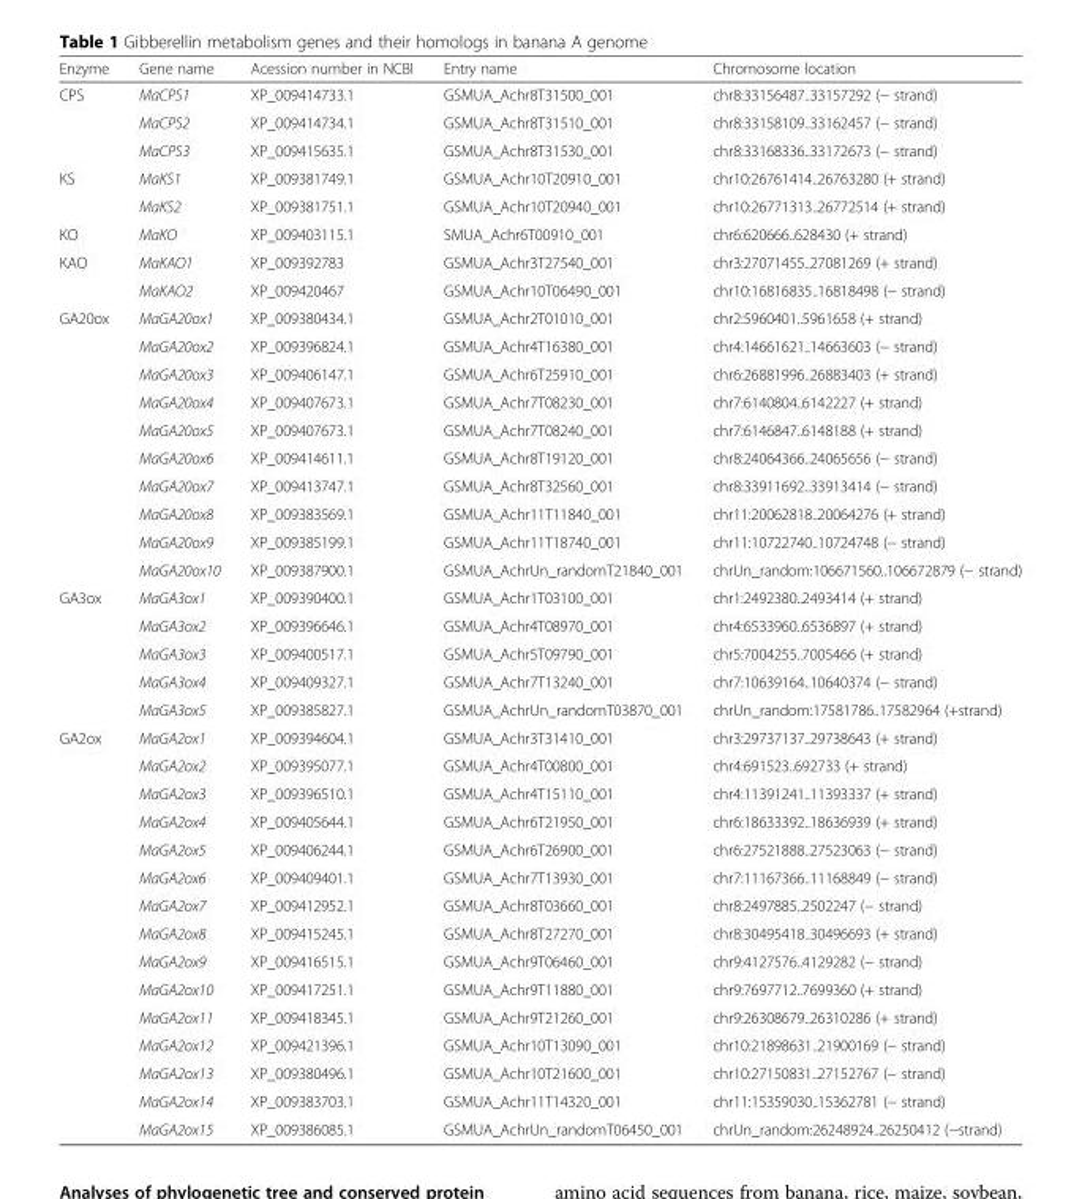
<table><thead><tr><td>Enzyme</td><td>Gene name</td><td>Acession number in NCBI</td><td>Entry name</td><td>Chromosome location</td></tr></thead><tbody><tr><td rowspan="3">CPS</td><td>MaCPS1</td><td>XP_009414733.1</td><td>GSMUA_Achr8T31500_001</td><td>chr8:33156487..33157292 (− strand)</td></tr><tr><td>MaCPS2</td><td>XP_009414734.1</td><td>GSMUA_Achr8T31510_001</td><td>chr8:33158109..33162457 (− strand)</td></tr><tr><td>MaCPS3</td><td>XP_009415635.1</td><td>GSMUA_Achr8T31530_001</td><td>chr8:33168336..33172673 (− strand)</td></tr><tr><td rowspan="2">KS</td><td>MaKS1</td><td>XP_009381749.1</td><td>GSMUA_Achr10T20910_001</td><td>chr10:26761414..26763280 (+ strand)</td></tr><tr><td>MaKS2</td><td>XP_009381751.1</td><td>GSMUA_Achr10T20940_001</td><td>chr10:26771313..26772514 (+ strand)</td></tr><tr><td>KO</td><td>MaKO</td><td>XP_009403115.1</td><td>SMUA_Achr6T00910_001</td><td>chr6:620666..628430 (+ strand)</td></tr><tr><td rowspan="2">KAO</td><td>MaKAO1</td><td>XP_009392783</td><td>GSMUA_Achr3T27540_001</td><td>chr3:27071455..27081269 (+ strand)</td></tr><tr><td>MaKAO2</td><td>XP_009420467</td><td>GSMUA_Achr10T06490_001</td><td>chr10:16816835..16818498 (− strand)</td></tr><tr><td rowspan="10">GA20ox</td><td>MaGA20ox1</td><td>XP_009380434.1</td><td>GSMUA_Achr2T01010_001</td><td>chr2:5960401..5961658 (+ strand)</td></tr><tr><td>MaGA20ox2</td><td>XP_009396824.1</td><td>GSMUA_Achr4T16380_001</td><td>chr4:14661621..14663603 (− strand)</td></tr><tr><td>MaGA20ox3</td><td>XP_009406147.1</td><td>GSMUA_Achr6T25910_001</td><td>chr6:26881996..26883403 (+ strand)</td></tr><tr><td>MaGA20ox4</td><td>XP_009407673.1</td><td>GSMUA_Achr7T08230_001</td><td>chr7:6140804..6142227 (+ strand)</td></tr><tr><td>MaGA20ox5</td><td>XP_009407673.1</td><td>GSMUA_Achr7T08240_001</td><td>chr7:6146847..6148188 (+ strand)</td></tr><tr><td>MaGA20ox6</td><td>XP_009414611.1</td><td>GSMUA_Achr8T19120_001</td><td>chr8:24064366..24065656 (− strand)</td></tr><tr><td>MaGA20ox7</td><td>XP_009413747.1</td><td>GSMUA_Achr8T32560_001</td><td>chr8:33911692..33913414 (− strand)</td></tr><tr><td>MaGA20ox8</td><td>XP_009383569.1</td><td>GSMUA_Achr11T11840_001</td><td>chr11:20062818..20064276 (+ strand)</td></tr><tr><td>MaGA20ox9</td><td>XP_009385199.1</td><td>GSMUA_Achr11T18740_001</td><td>chr11:10722740..10724748 (− strand)</td></tr><tr><td>MaGA20ox10</td><td>XP_009387900.1</td><td>GSMUA_AchrUn_randomT21840_001</td><td>chrUn_random:106671560..106672879 (− strand)</td></tr><tr><td rowspan="5">GA3ox</td><td>MaGA3ox1</td><td>XP_009390400.1</td><td>GSMUA_Achr1T03100_001</td><td>chr1:2492380..2493414 (+ strand)</td></tr><tr><td>MaGA3ox2</td><td>XP_009396646.1</td><td>GSMUA_Achr4T08970_001</td><td>chr4:6533960..6536897 (+ strand)</td></tr><tr><td>MaGA3ox3</td><td>XP_009400517.1</td><td>GSMUA_Achr5T09790_001</td><td>chr5:7004255..7005466 (+ strand)</td></tr><tr><td>MaGA3ox4</td><td>XP_009409327.1</td><td>GSMUA_Achr7T13240_001</td><td>chr7:10639164..10640374 (− strand)</td></tr><tr><td>MaGA3ox5</td><td>XP_009385827.1</td><td>GSMUA_AchrUn_randomT03870_001</td><td>chrUn_random:17581786..17582964 (+strand)</td></tr><tr><td rowspan="15">GA2ox</td><td>MaGA2ox1</td><td>XP_009394604.1</td><td>GSMUA_Achr3T31410_001</td><td>chr3:29737137..29738643 (+ strand)</td></tr><tr><td>MaGA2ox2</td><td>XP_009395077.1</td><td>GSMUA_Achr4T00800_001</td><td>chr4:691523..692733 (+ strand)</td></tr><tr><td>MaGA2ox3</td><td>XP_009396510.1</td><td>GSMUA_Achr4T15110_001</td><td>chr4:11391241..11393337 (+ strand)</td></tr><tr><td>MaGA2ox4</td><td>XP_009405644.1</td><td>GSMUA_Achr6T21950_001</td><td>chr6:18633392..18636939 (+ strand)</td></tr><tr><td>MaGA2ox5</td><td>XP_009406244.1</td><td>GSMUA_Achr6T26900_001</td><td>chr6:27521888..27523063 (− strand)</td></tr><tr><td>MaGA2ox6</td><td>XP_009409401.1</td><td>GSMUA_Achr7T13930_001</td><td>chr7:11167366..11168849 (− strand)</td></tr><tr><td>MaGA2ox7</td><td>XP_009412952.1</td><td>GSMUA_Achr8T03660_001</td><td>chr8:2497885..2502247 (− strand)</td></tr><tr><td>MaGA2ox8</td><td>XP_009415245.1</td><td>GSMUA_Achr8T27270_001</td><td>chr8:30495418..30496693 (+ strand)</td></tr><tr><td>MaGA2ox9</td><td>XP_009416515.1</td><td>GSMUA_Achr9T06460_001</td><td>chr9:4127576..4129282 (− strand)</td></tr><tr><td>MaGA2ox10</td><td>XP_009417251.1</td><td>GSMUA_Achr9T11880_001</td><td>chr9:7697712..7699360 (+ strand)</td></tr><tr><td>MaGA2ox11</td><td>XP_009418345.1</td><td>GSMUA_Achr9T21260_001</td><td>chr9:26308679..26310286 (+ strand)</td></tr><tr><td>MaGA2ox12</td><td>XP_009421396.1</td><td>GSMUA_Achr10T13090_001</td><td>chr10:21898631..21900169 (− strand)</td></tr><tr><td>MaGA2ox13</td><td>XP_009380496.1</td><td>GSMUA_Achr10T21600_001</td><td>chr10:27150831..27152767 (− strand)</td></tr><tr><td>MaGA2ox14</td><td>XP_009383703.1</td><td>GSMUA_Achr11T14320_001</td><td>chr11:15359030..15362781 (− strand)</td></tr><tr><td>MaGA2ox15</td><td>XP_009386085.1</td><td>GSMUA_AchrUn_randomT06450_001</td><td>chrUn_random:26248924..26250412 (−strand)</td></tr></tbody></table>